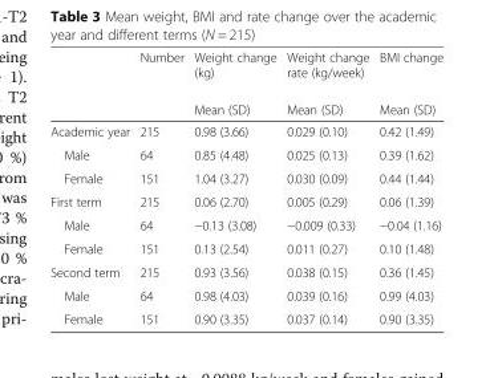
<table><thead><tr><td rowspan="2"></td><td rowspan="2">Number</td><td rowspan="2">Weight change (kg) Mean (SD)</td><td rowspan="2">Weight change rate (kg/week) Mean (SD)</td><td rowspan="2">BMI change Mean (SD)</td></tr><tr></tr></thead><tbody><tr><td>Academic year</td><td>215</td><td>0.98 (3.66)</td><td>0.029 (0.10)</td><td>0.42 (1.49)</td></tr><tr><td>Male</td><td>64</td><td>0.85 (4.48)</td><td>0.025 (0.13)</td><td>0.39 (1.62)</td></tr><tr><td>Female</td><td>151</td><td>1.04 (3.27)</td><td>0.030 (0.09)</td><td>0.44 (1.44)</td></tr><tr><td>First term</td><td>215</td><td>0.06 (2.70)</td><td>0.005 (0.29)</td><td>0.06 (1.39)</td></tr><tr><td>Male</td><td>64</td><td>−0.13 (3.08)</td><td>−0.009 (0.33)</td><td>−0.04 (1.16)</td></tr><tr><td>Female</td><td>151</td><td>0.13 (2.54)</td><td>0.011 (0.27)</td><td>0.10 (1.48)</td></tr><tr><td>Second term</td><td>215</td><td>0.93 (3.56)</td><td>0.038 (0.15)</td><td>0.36 (1.45)</td></tr><tr><td>Male</td><td>64</td><td>0.98 (4.03)</td><td>0.039 (0.16)</td><td>0.99 (4.03)</td></tr><tr><td>Female</td><td>151</td><td>0.90 (3.35)</td><td>0.037 (0.14)</td><td>0.90 (3.35)</td></tr></tbody></table>